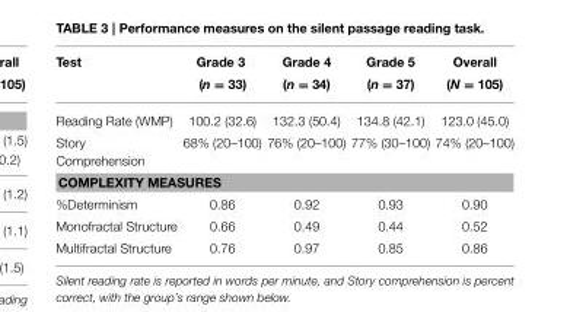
<table><thead><tr><td>Test</td><td>Grade 3 (n = 33)</td><td>Grade 4 (n = 34)</td><td>Grade 5 (n = 37)</td><td>Overall (N = 105)</td></tr></thead><tbody><tr><td>Reading Rate (WMP)</td><td>100.2 (32.6)</td><td>132.3 (50.4)</td><td>134.8 (42.1)</td><td>123.0 (45.0)</td></tr><tr><td>Story Comprehension</td><td>68% (20–100)</td><td>76% (20–100)</td><td>77% (30–100)</td><td>74% (20–100)</td></tr><tr><td colspan="5">COMPLEXITY MEASURES</td></tr><tr><td>%Determinism</td><td>0.86</td><td>0.92</td><td>0.93</td><td>0.90</td></tr><tr><td>Monofractal Structure</td><td>0.66</td><td>0.49</td><td>0.44</td><td>0.52</td></tr><tr><td>Multifractal Structure</td><td>0.76</td><td>0.97</td><td>0.85</td><td>0.86</td></tr></tbody></table>